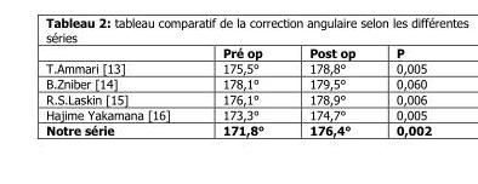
<table><thead><tr><td></td><td>Pré op</td><td>Post op</td><td>P</td></tr></thead><tbody><tr><td>T.Ammari [13]</td><td>175,5°</td><td>178,8°</td><td>0,005</td></tr><tr><td>B.Zniber [14]</td><td>178,1°</td><td>179,5°</td><td>0,060</td></tr><tr><td>R.S.Laskin [15]</td><td>176,1°</td><td>178,9°</td><td>0,006</td></tr><tr><td>Hajime Yakamana [16]</td><td>173,3°</td><td>174,7°</td><td>0,005</td></tr><tr><td>Notre série</td><td>171,8°</td><td>176,4°</td><td>0,002</td></tr></tbody></table>